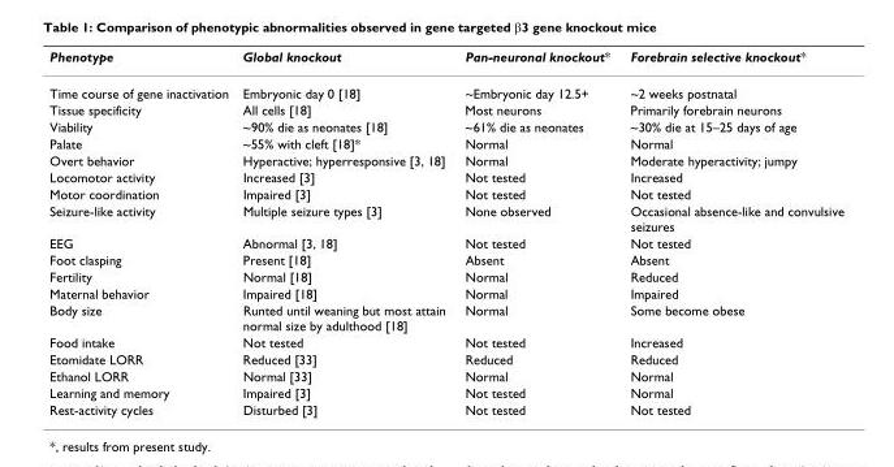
<table><thead><tr><td>Phenotype</td><td>Global knockout</td><td>Pan-neuronal knockout*</td><td>Forebrain selective knockout*</td></tr></thead><tbody><tr><td>Time course of gene inactivation</td><td>Embryonic day 0 [18]</td><td>~Embryonic day 12.5+</td><td>~2 weeks postnatal</td></tr><tr><td>Tissue specificity</td><td>All cells [18]</td><td>Most neurons</td><td>Primarily forebrain neurons</td></tr><tr><td>Viability</td><td>~90% die as neonates [18]</td><td>~61% die as neonates</td><td>~30% die at 15–25 days of age</td></tr><tr><td>Palate</td><td>~55% with cleft [18]*</td><td>Normal</td><td>Normal</td></tr><tr><td>Overt behavior</td><td>Hyperactive; hyperresponsive [3, 18]</td><td>Normal</td><td>Moderate hyperactivity; jumpy</td></tr><tr><td>Locomotor activity</td><td>Increased [3]</td><td>Not tested</td><td>Increased</td></tr><tr><td>Motor coordination</td><td>Impaired [3]</td><td>Not tested</td><td>Not tested</td></tr><tr><td>Seizure-like activity</td><td>Multiple seizure types [3]</td><td>None observed</td><td>Occasional absence-like and convulsive seizures</td></tr><tr><td>EEG</td><td>Abnormal [3, 18]</td><td>Not tested</td><td>Not tested</td></tr><tr><td>Foot clasping</td><td>Present [18]</td><td>Absent</td><td>Absent</td></tr><tr><td>Fertility</td><td>Normal [18]</td><td>Normal</td><td>Reduced</td></tr><tr><td>Maternal behavior</td><td>Impaired [18]</td><td>Normal</td><td>Impaired</td></tr><tr><td>Body size</td><td>Runted until weaning but most attain normal size by adulthood [18]</td><td>Normal</td><td>Some become obese</td></tr><tr><td>Food intake</td><td>Not tested</td><td>Not tested</td><td>Increased</td></tr><tr><td>Etomidate LORR</td><td>Reduced [33]</td><td>Reduced</td><td>Reduced</td></tr><tr><td>Ethanol LORR</td><td>Normal [33]</td><td>Normal</td><td>Normal</td></tr><tr><td>Learning and memory</td><td>Impaired [3]</td><td>Not tested</td><td>Normal</td></tr><tr><td>Rest-activity cycles</td><td>Disturbed [3]</td><td>Not tested</td><td>Not tested</td></tr></tbody></table>